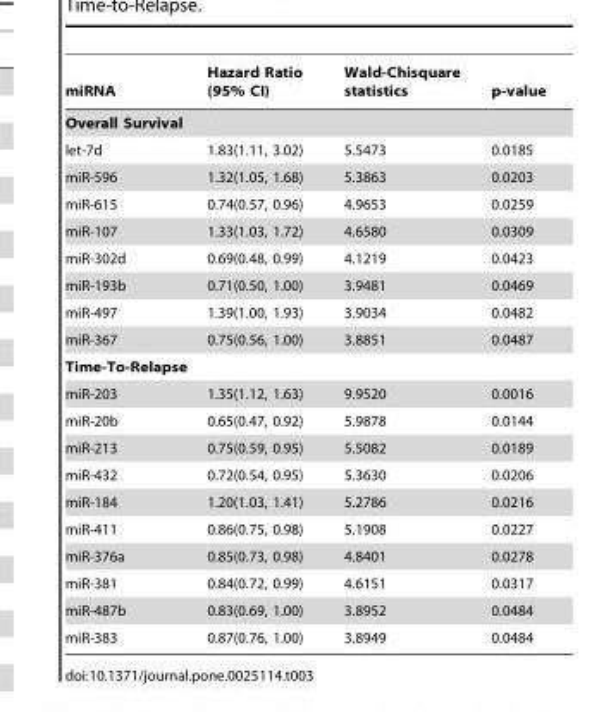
<table><thead><tr><td>miRNA</td><td>Hazard Ratio (95% CI)</td><td>Wald-Chisquare statistics</td><td>p-value</td></tr></thead><tbody><tr><td colspan="4">Overall Survival</td></tr><tr><td>let-7d</td><td>1.83(1.11, 3.02)</td><td>5.5473</td><td>0.0185</td></tr><tr><td>miR-596</td><td>1.32(1.05, 1.68)</td><td>5.3863</td><td>0.0203</td></tr><tr><td>miR-615</td><td>0.74(0.57, 0.96)</td><td>4.9653</td><td>0.0259</td></tr><tr><td>miR-107</td><td>1.33(1.03, 1.72)</td><td>4.6580</td><td>0.0309</td></tr><tr><td>miR-302d</td><td>0.69(0.48, 0.99)</td><td>4.1219</td><td>0.0423</td></tr><tr><td>miR-193b</td><td>0.71(0.50, 1.00)</td><td>3.9481</td><td>0.0469</td></tr><tr><td>miR-497</td><td>1.39(1.00, 1.93)</td><td>3.9034</td><td>0.0482</td></tr><tr><td>miR-367</td><td>0.75(0.56, 1.00)</td><td>3.8851</td><td>0.0487</td></tr><tr><td colspan="4">Time-To-Relapse</td></tr><tr><td>miR-203</td><td>1.35(1.12, 1.63)</td><td>9.9520</td><td>0.0016</td></tr><tr><td>miR-20b</td><td>0.65(0.47, 0.92)</td><td>5.9878</td><td>0.0144</td></tr><tr><td>miR-213</td><td>0.75(0.59, 0.95)</td><td>5.5082</td><td>0.0189</td></tr><tr><td>miR-432</td><td>0.72(0.54, 0.95)</td><td>5.3630</td><td>0.0206</td></tr><tr><td>miR-184</td><td>1.20(1.03, 1.41)</td><td>5.2786</td><td>0.0216</td></tr><tr><td>miR-411</td><td>0.86(0.75, 0.98)</td><td>5.1908</td><td>0.0227</td></tr><tr><td>miR-376a</td><td>0.85(0.73, 0.98)</td><td>4.8401</td><td>0.0278</td></tr><tr><td>miR-381</td><td>0.84(0.72, 0.99)</td><td>4.6151</td><td>0.0317</td></tr><tr><td>miR-487b</td><td>0.83(0.69, 1.00)</td><td>3.8952</td><td>0.0484</td></tr><tr><td>miR-383</td><td>0.87(0.76, 1.00)</td><td>3.8949</td><td>0.0484</td></tr></tbody></table>